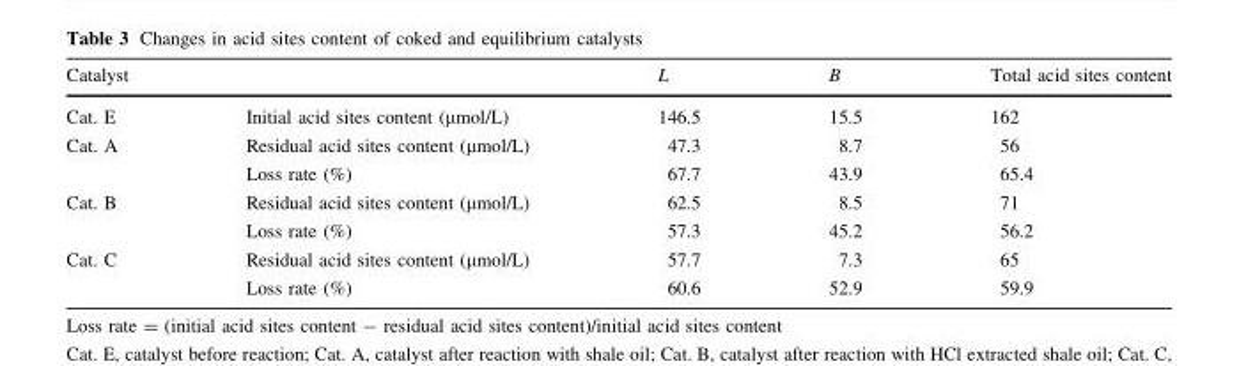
<table><thead><tr><td colspan="2">Catalyst</td><td rowspan="2">L 146.5</td><td rowspan="2">B 15.5</td><td rowspan="2">Total acid sites content 162</td></tr><tr><td>Cat. E</td><td>Initial acid sites content (μmol/L)</td></tr></thead><tbody><tr><td rowspan="2">Cat. A</td><td>Residual acid sites content (μmol/L)</td><td>47.3</td><td>8.7</td><td>56</td></tr><tr><td>Loss rate (%)</td><td>67.7</td><td>43.9</td><td>65.4</td></tr><tr><td rowspan="2">Cat. B</td><td>Residual acid sites content (μmol/L)</td><td>62.5</td><td>8.5</td><td>71</td></tr><tr><td>Loss rate (%)</td><td>57.3</td><td>45.2</td><td>56.2</td></tr><tr><td rowspan="2">Cat. C</td><td>Residual acid sites content (μmol/L)</td><td>57.7</td><td>7.3</td><td>65</td></tr><tr><td>Loss rate (%)</td><td>60.6</td><td>52.9</td><td>59.9</td></tr></tbody></table>